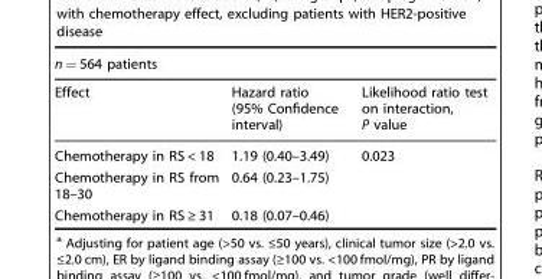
<table><thead><tr><td colspan="3">n = 564 patients</td></tr><tr><td>Effect</td><td>Hazard ratio (95% Confidence interval)</td><td>Likelihood ratio test on interaction, P value</td></tr></thead><tbody><tr><td>Chemotherapy in RS &lt; 18</td><td>1.19 (0.40–3.49)</td><td rowspan="3">0.023</td></tr><tr><td>Chemotherapy in RS from 18–30</td><td>0.64 (0.23–1.75)</td></tr><tr><td>Chemotherapy in RS ≥ 31</td><td>0.18 (0.07–0.46)</td></tr></tbody></table>